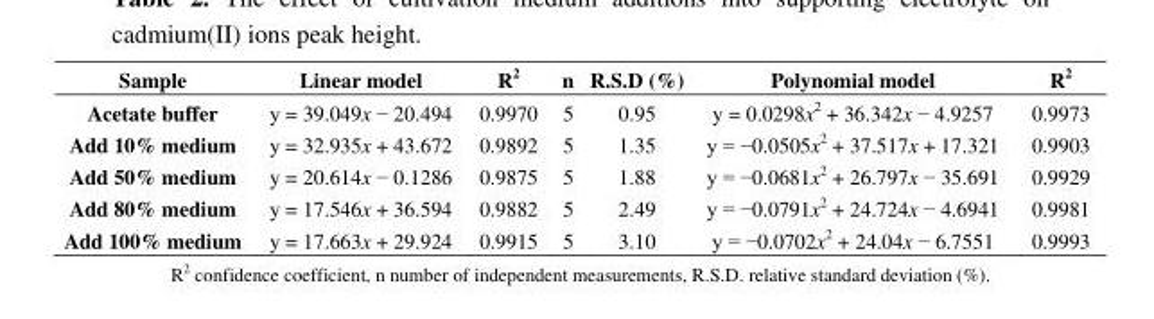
<table><thead><tr><td>Sample</td><td>Linear model</td><td>R<sup>2</sup></td><td>n</td><td>R.S.D (%)</td><td>Polynomial model</td><td>R<sup>2</sup></td></tr></thead><tbody><tr><td>Acetate buffer</td><td>y = 39.049x − 20.494</td><td>0.9970</td><td>5</td><td>0.95</td><td>y = 0.0298x<sup>2</sup> + 36.342x − 4.9257</td><td>0.9973</td></tr><tr><td>Add 10% medium</td><td>y = 32.935x + 43.672</td><td>0.9892</td><td>5</td><td>1.35</td><td>y = −0.0505x<sup>2</sup> + 37.517x + 17.321</td><td>0.9903</td></tr><tr><td>Add 50% medium</td><td>y = 20.614x − 0.1286</td><td>0.9875</td><td>5</td><td>1.88</td><td>y = −0.0681x<sup>2</sup> + 26.797x − 35.691</td><td>0.9929</td></tr><tr><td>Add 80% medium</td><td>y = 17.546x + 36.594</td><td>0.9882</td><td>5</td><td>2.49</td><td>y = −0.0791x<sup>2</sup> + 24.724x − 4.6941</td><td>0.9981</td></tr><tr><td>Add 100% medium</td><td>y = 17.663x + 29.924</td><td>0.9915</td><td>5</td><td>3.10</td><td>y = −0.0702x<sup>2</sup> + 24.04x − 6.7551</td><td>0.9993</td></tr></tbody></table>